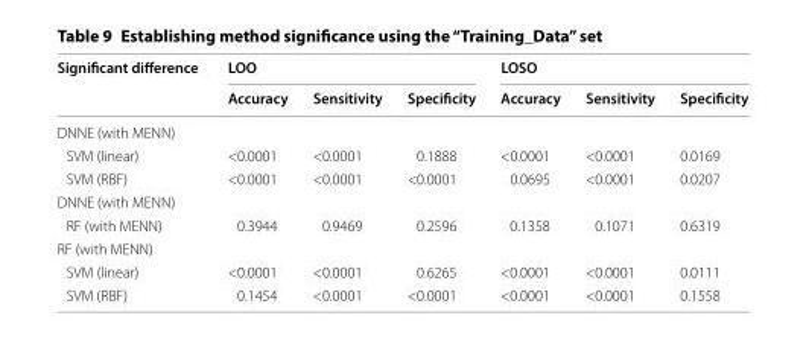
<table><thead><tr><td rowspan="2">Significant difference</td><td colspan="3">LOO</td><td colspan="3">LOSO</td></tr><tr><td>Accuracy</td><td>Sensitivity</td><td>Specificity</td><td>Accuracy</td><td>Sensitivity</td><td>Specificity</td></tr></thead><tbody><tr><td colspan="7">DNNE (with MENN)</td></tr><tr><td>SVM (linear)</td><td>&lt;0.0001</td><td>&lt;0.0001</td><td>0.1888</td><td>&lt;0.0001</td><td>&lt;0.0001</td><td>0.0169</td></tr><tr><td>SVM (RBF)</td><td>&lt;0.0001</td><td>&lt;0.0001</td><td>&lt;0.0001</td><td>0.0695</td><td>&lt;0.0001</td><td>0.0207</td></tr><tr><td colspan="7">DNNE (with MENN)</td></tr><tr><td>RF (with MENN)</td><td>0.3944</td><td>0.9469</td><td>0.2596</td><td>0.1358</td><td>0.1071</td><td>0.6319</td></tr><tr><td colspan="7">RF (with MENN)</td></tr><tr><td>SVM (linear)</td><td>&lt;0.0001</td><td>&lt;0.0001</td><td>0.6265</td><td>&lt;0.0001</td><td>&lt;0.0001</td><td>0.0111</td></tr><tr><td>SVM (RBF)</td><td>0.1454</td><td>&lt;0.0001</td><td>&lt;0.0001</td><td>&lt;0.0001</td><td>&lt;0.0001</td><td>0.1558</td></tr></tbody></table>